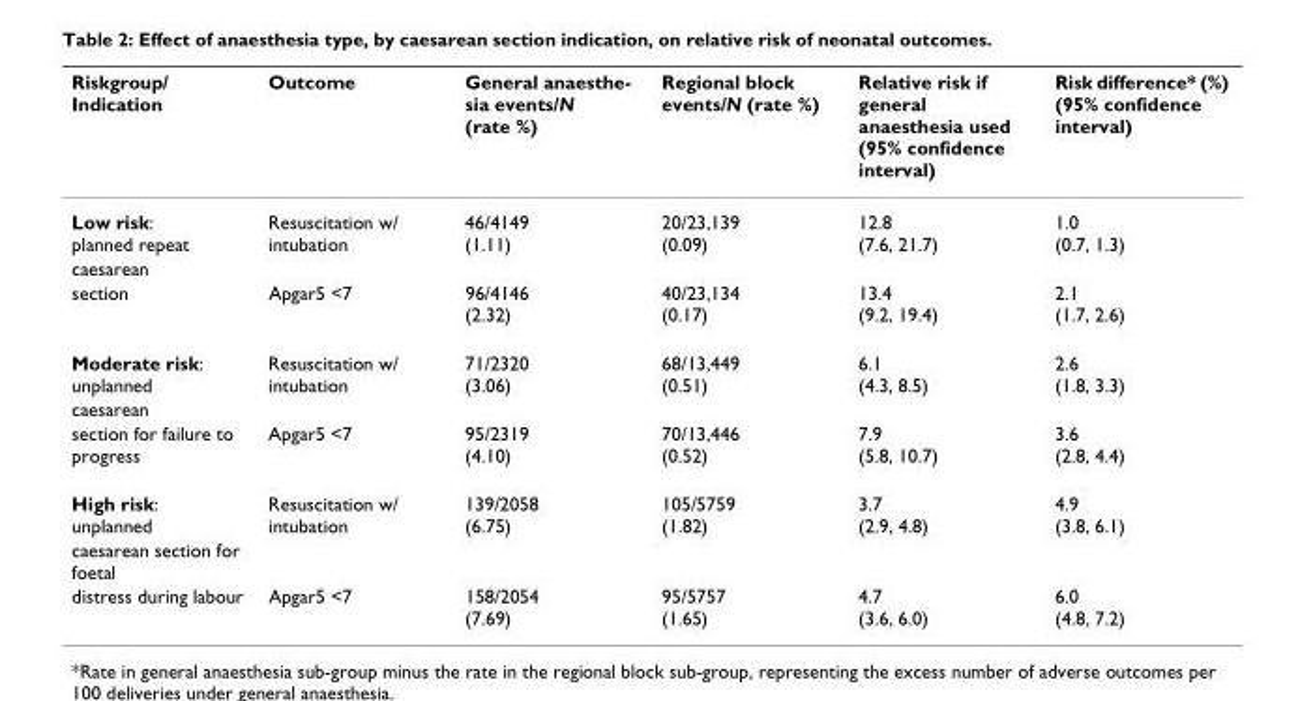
<table><thead><tr><td>Riskgroup/ Indication</td><td>Outcome</td><td>General anaesthe- sia events/N (rate %)</td><td>Regional block events/N (rate %)</td><td>Relative risk if general anaesthesia used (95% confidence interval)</td><td>Risk difference* (%) (95% confidence interval)</td></tr></thead><tbody><tr><td>Low risk: planned repeat</td><td>Resuscitation w/ intubation</td><td>46/4149 (1.11)</td><td>20/23,139 (0.09)</td><td>12.8 (7.6, 21.7)</td><td>1.0 (0.7, 1.3)</td></tr><tr><td colspan="6">caesarean</td></tr><tr><td>section</td><td>Apgar5 &lt;7</td><td>96/4146 (2.32)</td><td>40/23,134 (0.17)</td><td>13.4 (9.2, 19.4)</td><td>2.1 (1.7, 2.6)</td></tr><tr><td>Moderate risk: unplanned</td><td>Resuscitation w/ intubation</td><td>71/2320 (3.06)</td><td>68/13,449 (0.51)</td><td>6.1 (4.3, 8.5)</td><td>2.6 (1.8, 3.3)</td></tr><tr><td colspan="6">caesarean</td></tr><tr><td>section for failure to progress</td><td>Apgar5 &lt;7</td><td>95/2319 (4.10)</td><td>70/13,446 (0.52)</td><td>7.9 (5.8, 10.7)</td><td>3.6 (2.8, 4.4)</td></tr><tr><td>High risk: unplanned</td><td>Resuscitation w/ intubation</td><td>139/2058 (6.75)</td><td>105/5759 (1.82)</td><td>3.7 (2.9, 4.8)</td><td>4.9 (3.8, 6.1)</td></tr><tr><td colspan="6">caesarean section for foetal</td></tr><tr><td>distress during labour</td><td>Apgar5 &lt;7</td><td>158/2054 (7.69)</td><td>95/5757 (1.65)</td><td>4.7 (3.6, 6.0)</td><td>6.0 (4.8, 7.2)</td></tr></tbody></table>